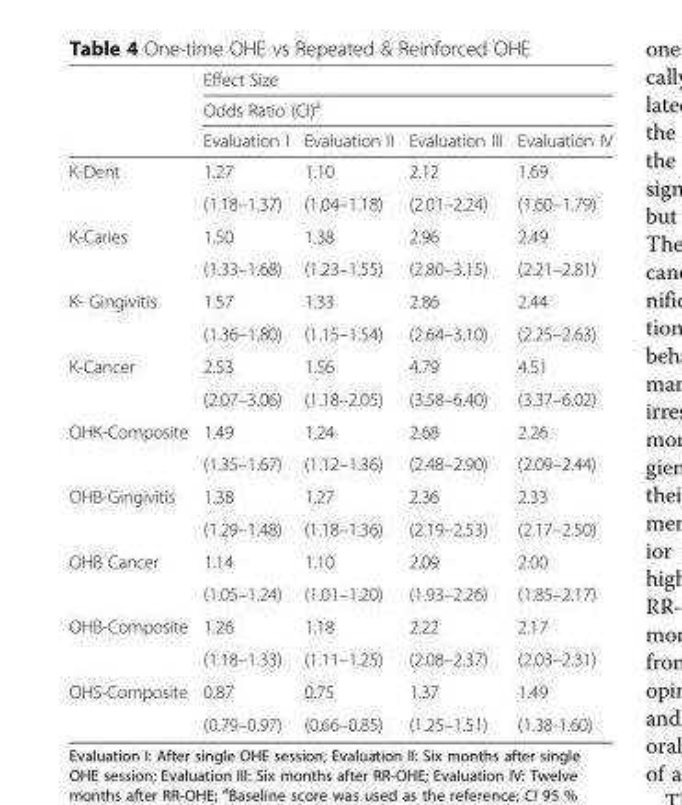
<table><thead><tr><td rowspan="3"></td><td rowspan="2" colspan="4">Effect Size Odds Ratio (CI)<sup>a</sup></td></tr><tr></tr><tr><td>Evaluation I</td><td>Evaluation II</td><td>Evaluation III</td><td>Evaluation IV</td></tr></thead><tbody><tr><td rowspan="2">K-Dent</td><td>1.27</td><td>1.10</td><td>2.12</td><td>1.69</td></tr><tr><td>(1.18–1.37)</td><td>(1.04–1.18)</td><td>(2.01–2.24)</td><td>(1.60–1.79)</td></tr><tr><td rowspan="2">K-Caries</td><td>1.50</td><td>1.38</td><td>2.96</td><td>2.49</td></tr><tr><td>(1.33–1.68)</td><td>(1.23–1.55)</td><td>(2.80–3.15)</td><td>(2.21–2.81)</td></tr><tr><td rowspan="2">K- Gingivitis</td><td>1.57</td><td>1.33</td><td>2.86</td><td>2.44</td></tr><tr><td>(1.36–1.80)</td><td>(1.15–1.54)</td><td>(2.64–3.10)</td><td>(2.25–2.63)</td></tr><tr><td rowspan="2">K-Cancer</td><td>2.53</td><td>1.56</td><td>4.79</td><td>4.51</td></tr><tr><td>(2.07–3.06)</td><td>(1.18–2.05)</td><td>(3.58–6.40)</td><td>(3.37–6.02)</td></tr><tr><td rowspan="2">OHK-Composite</td><td>1.49</td><td>1.24</td><td>2.68</td><td>2.26</td></tr><tr><td>(1.35–1.67)</td><td>(1.12–1.36)</td><td>(2.48–2.90)</td><td>(2.09–2.44)</td></tr><tr><td rowspan="2">OHB-Gingivitis</td><td>1.38</td><td>1.27</td><td>2.36</td><td>2.33</td></tr><tr><td>(1.29–1.48)</td><td>(1.18–1.36)</td><td>(2.19–2.53)</td><td>(2.17–2.50)</td></tr><tr><td rowspan="2">OHB Cancer</td><td>1.14</td><td>1.10</td><td>2.09</td><td>2.00</td></tr><tr><td>(1.05–1.24)</td><td>(1.01–1.20)</td><td>(1.93–2.26)</td><td>(1.85–2.17)</td></tr><tr><td rowspan="2">OHB-Composite</td><td>1.26</td><td>1.18</td><td>2.22</td><td>2.17</td></tr><tr><td>(1.18–1.33)</td><td>(1.11–1.25)</td><td>(2.08–2.37)</td><td>(2.03–2.31)</td></tr><tr><td rowspan="2">OHS-Composite</td><td>0.87</td><td>0.75</td><td>1.37</td><td>1.49</td></tr><tr><td>(0.79–0.97)</td><td>(0.66–0.85)</td><td>(1.25–1.51)</td><td>(1.38-1.60)</td></tr></tbody></table>